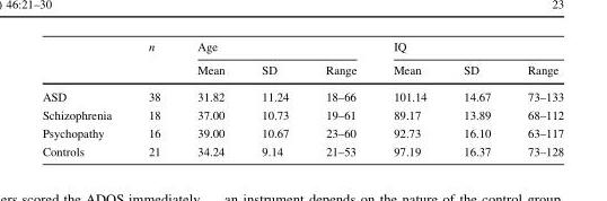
<table><thead><tr><td rowspan="2"></td><td rowspan="2">n</td><td colspan="3">Age</td><td colspan="3">IQ</td></tr><tr><td>Mean</td><td>SD</td><td>Range</td><td>Mean</td><td>SD</td><td>Range</td></tr></thead><tbody><tr><td>ASD</td><td>38</td><td>31.82</td><td>11.24</td><td>18–66</td><td>101.14</td><td>14.67</td><td>73–133</td></tr><tr><td>Schizophrenia</td><td>18</td><td>37.00</td><td>10.73</td><td>19–61</td><td>89.17</td><td>13.89</td><td>68–112</td></tr><tr><td>Psychopathy</td><td>16</td><td>39.00</td><td>10.67</td><td>23–60</td><td>92.73</td><td>16.10</td><td>63–117</td></tr><tr><td>Controls</td><td>21</td><td>34.24</td><td>9.14</td><td>21–53</td><td>97.19</td><td>16.37</td><td>73–128</td></tr></tbody></table>